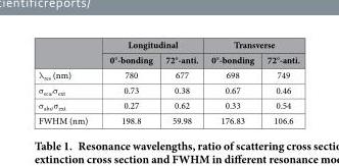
<table><thead><tr><td rowspan="2"></td><td colspan="2">Longitudinal</td><td colspan="2">Transverse</td></tr><tr><td>0°-bonding</td><td>72°-anti.</td><td>0°-bonding</td><td>72°-anti.</td></tr></thead><tbody><tr><td>λ <sub>res</sub> (nm)</td><td>780</td><td>677</td><td>698</td><td>749</td></tr><tr><td>σ <sub>sca/</sub>σ <sub>ext</sub></td><td>0.73</td><td>0.38</td><td>0.67</td><td>0.46</td></tr><tr><td>σ <sub>abs/</sub>σ <sub>ext</sub></td><td>0.27</td><td>0.62</td><td>0.33</td><td>0.54</td></tr><tr><td>FWHM (nm)</td><td>198.8</td><td>59.98</td><td>176.83</td><td>106.6</td></tr></tbody></table>